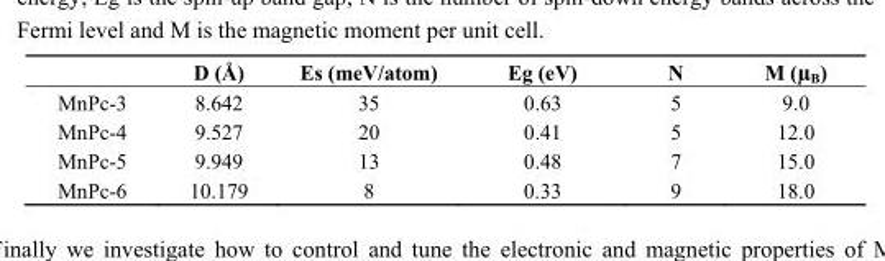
<table><thead><tr><td></td><td>D (Å)</td><td>Es (meV/atom)</td><td>Eg (eV)</td><td>N</td><td>M (µ<sub>B</sub>)</td></tr></thead><tbody><tr><td>MnPc-3</td><td>8.642</td><td>35</td><td>0.63</td><td>5</td><td>9.0</td></tr><tr><td>MnPc-4</td><td>9.527</td><td>20</td><td>0.41</td><td>5</td><td>12.0</td></tr><tr><td>MnPc-5</td><td>9.949</td><td>13</td><td>0.48</td><td>7</td><td>15.0</td></tr><tr><td>MnPc-6</td><td>10.179</td><td>8</td><td>0.33</td><td>9</td><td>18.0</td></tr></tbody></table>